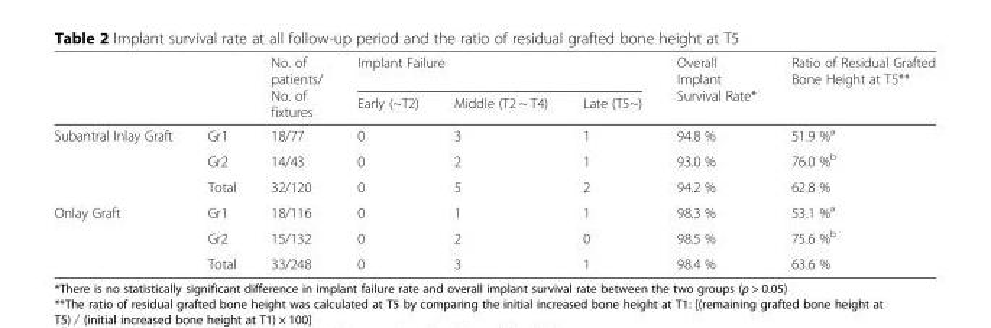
<table><thead><tr><td rowspan="2"></td><td rowspan="2"></td><td rowspan="2">No. of patients/ No. of fixtures</td><td colspan="3">Implant Failure</td><td rowspan="2">Overall Implant Survival Rate*</td><td rowspan="2">Ratio of Residual Grafted Bone Height at T5**</td></tr><tr><td>Early (~T2)</td><td>Middle (T2 ~ T4)</td><td>Late (T5~)</td></tr></thead><tbody><tr><td rowspan="3">Subantral Inlay Graft</td><td>Gr1</td><td>18/77</td><td>0</td><td>3</td><td>1</td><td>94.8 %</td><td>51.9 %<sup>a</sup></td></tr><tr><td>Gr2</td><td>14/43</td><td>0</td><td>2</td><td>1</td><td>93.0 %</td><td>76.0 %<sup>b</sup></td></tr><tr><td>Total</td><td>32/120</td><td>0</td><td>5</td><td>2</td><td>94.2 %</td><td>62.8 %</td></tr><tr><td rowspan="3">Onlay Graft</td><td>Gr1</td><td>18/116</td><td>0</td><td>1</td><td>1</td><td>98.3 %</td><td>53.1 %<sup>a</sup></td></tr><tr><td>Gr2</td><td>15/132</td><td>0</td><td>2</td><td>0</td><td>98.5 %</td><td>75.6 %<sup>b</sup></td></tr><tr><td>Total</td><td>33/248</td><td>0</td><td>3</td><td>1</td><td>98.4 %</td><td>63.6 %</td></tr></tbody></table>